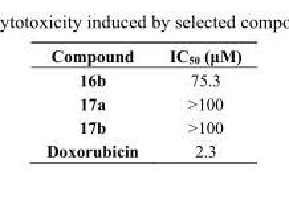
<table><thead><tr><td>Compound</td><td>IC<sub>50</sub> (μM)</td></tr></thead><tbody><tr><td>16b</td><td>75.3</td></tr><tr><td>17a</td><td>&gt;100</td></tr><tr><td>17b</td><td>&gt;100</td></tr><tr><td>Doxorubicin</td><td>2.3</td></tr></tbody></table>